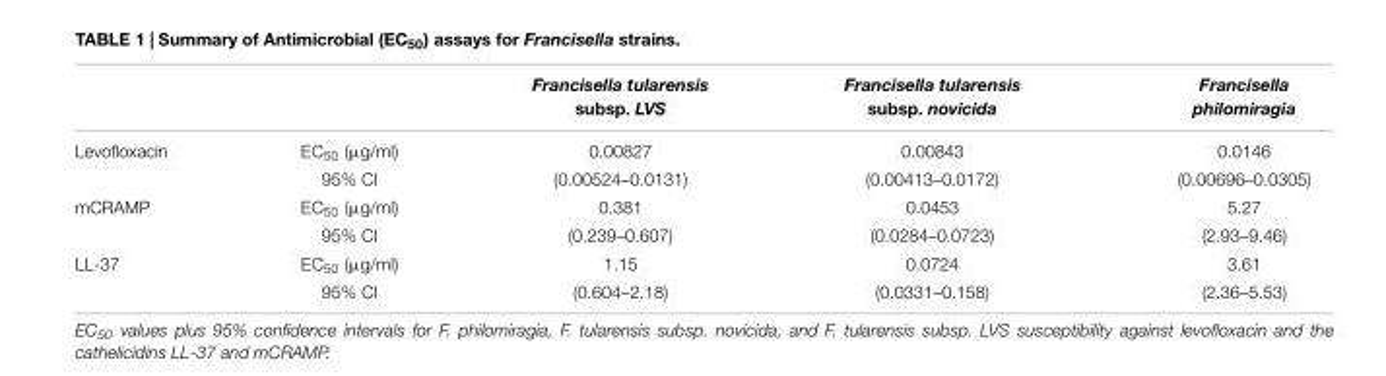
<table><thead><tr><td></td><td></td><td>Francisella tularensis subsp. LVS</td><td>Francisella tularensis subsp. novicida</td><td>Francisella philomiragia</td></tr></thead><tbody><tr><td rowspan="2">Levofloxacin</td><td>EC<sub>50</sub> (µg/ml)</td><td>0.00827</td><td>0.00843</td><td>0.0146</td></tr><tr><td>95% CI</td><td>(0.00524–0.0131)</td><td>(0.00413–0.0172)</td><td>(0.00696–0.0305)</td></tr><tr><td rowspan="2">mCRAMP</td><td>EC<sub>50</sub> (µg/ml)</td><td>0.381</td><td>0.0453</td><td>5.27</td></tr><tr><td>95% CI</td><td>(0.239–0.607)</td><td>(0.0284–0.0723)</td><td>(2.93–9.46)</td></tr><tr><td rowspan="2">LL-37</td><td>EC<sub>50</sub> (µg/ml)</td><td>1.15</td><td>0.0724</td><td>3.61</td></tr><tr><td>95% CI</td><td>(0.604–2.18)</td><td>(0.0331–0.158)</td><td>(2.36–5.53)</td></tr></tbody></table>